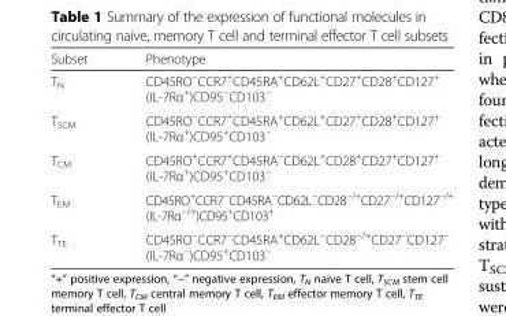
<table><thead><tr><td>Subset</td><td>Phenotype</td></tr></thead><tbody><tr><td>T<sub>N</sub></td><td>CD45RO<sup>−</sup>CCR7<sup>+</sup>CD45RA<sup>+</sup>CD62L<sup>+</sup>CD27<sup>+</sup>CD28<sup>+</sup>CD127<sup>+</sup> (IL-7Rα<sup>+</sup>)CD95<sup>−</sup>CD103<sup>−</sup></td></tr><tr><td>T<sub>SCM</sub></td><td>CD45RO<sup>−</sup>CCR7<sup>+</sup>CD45RA<sup>+</sup>CD62L<sup>+</sup>CD27<sup>+</sup>CD28<sup>+</sup>CD127<sup>+</sup> (IL-7Rα<sup>+</sup>)CD95<sup>+</sup>CD103<sup>−</sup></td></tr><tr><td>T<sub>CM</sub></td><td>CD45RO<sup>+</sup>CCR7<sup>+</sup>CD45RA<sup>−</sup>CD62L<sup>+</sup>CD28<sup>+</sup>CD27<sup>+</sup>CD127<sup>+</sup> (IL-7Rα<sup>+</sup>)CD95<sup>+</sup>CD103<sup>−</sup></td></tr><tr><td>T<sub>EM</sub></td><td>CD45RO<sup>+</sup>CCR7<sup>−</sup>CD45RA<sup>−</sup>CD62L<sup>−</sup>CD28<sup>−/+</sup>CD27<sup>−/+</sup>CD127<sup>−/+</sup> (IL-7Rα<sup>−/+</sup>)CD95<sup>+</sup>CD103<sup>+</sup></td></tr><tr><td>T<sub>TE</sub></td><td>CD45RO<sup>−</sup>CCR7<sup>−</sup>CD45RA<sup>+</sup>CD62L<sup>−</sup>CD28<sup>−/+</sup>CD27<sup>−</sup>CD127<sup>−</sup> (IL-7Rα<sup>−</sup>)CD95<sup>+</sup>CD103<sup>−</sup></td></tr></tbody></table>